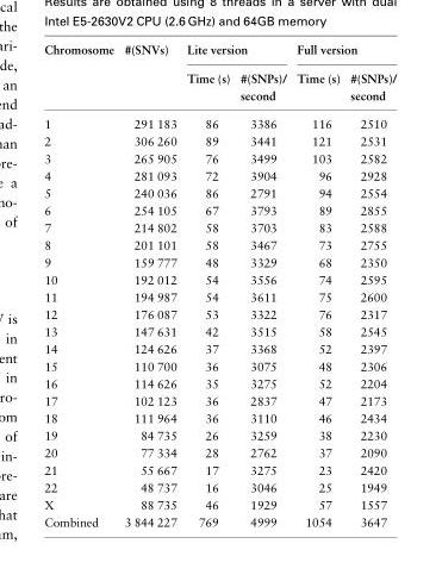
<table><thead><tr><td rowspan="2">Chromosome</td><td rowspan="2">#(SNVs)</td><td colspan="2">Lite version</td><td colspan="2">Full version</td></tr><tr><td>Time (s)</td><td>#(SNPs)/ second</td><td>Time (s)</td><td>#(SNPs)/ second</td></tr></thead><tbody><tr><td>1</td><td>291 183</td><td>86</td><td>3386</td><td>116</td><td>2510</td></tr><tr><td>2</td><td>306 260</td><td>89</td><td>3441</td><td>121</td><td>2531</td></tr><tr><td>3</td><td>265 905</td><td>76</td><td>3499</td><td>103</td><td>2582</td></tr><tr><td>4</td><td>281 093</td><td>72</td><td>3904</td><td>96</td><td>2928</td></tr><tr><td>5</td><td>240 036</td><td>86</td><td>2791</td><td>94</td><td>2554</td></tr><tr><td>6</td><td>254 105</td><td>67</td><td>3793</td><td>89</td><td>2855</td></tr><tr><td>7</td><td>214 802</td><td>58</td><td>3703</td><td>83</td><td>2588</td></tr><tr><td>8</td><td>201 101</td><td>58</td><td>3467</td><td>73</td><td>2755</td></tr><tr><td>9</td><td>159 777</td><td>48</td><td>3329</td><td>68</td><td>2350</td></tr><tr><td>10</td><td>192 012</td><td>54</td><td>3556</td><td>74</td><td>2595</td></tr><tr><td>11</td><td>194 987</td><td>54</td><td>3611</td><td>75</td><td>2600</td></tr><tr><td>12</td><td>176 087</td><td>53</td><td>3322</td><td>76</td><td>2317</td></tr><tr><td>13</td><td>147 631</td><td>42</td><td>3515</td><td>58</td><td>2545</td></tr><tr><td>14</td><td>124 626</td><td>37</td><td>3368</td><td>52</td><td>2397</td></tr><tr><td>15</td><td>110 700</td><td>36</td><td>3075</td><td>48</td><td>2306</td></tr><tr><td>16</td><td>114 626</td><td>35</td><td>3275</td><td>52</td><td>2204</td></tr><tr><td>17</td><td>102 123</td><td>36</td><td>2837</td><td>47</td><td>2173</td></tr><tr><td>18</td><td>111 964</td><td>36</td><td>3110</td><td>46</td><td>2434</td></tr><tr><td>19</td><td>84 735</td><td>26</td><td>3259</td><td>38</td><td>2230</td></tr><tr><td>20</td><td>77 334</td><td>28</td><td>2762</td><td>37</td><td>2090</td></tr><tr><td>21</td><td>55 667</td><td>17</td><td>3275</td><td>23</td><td>2420</td></tr><tr><td>22</td><td>48 737</td><td>16</td><td>3046</td><td>25</td><td>1949</td></tr><tr><td>X</td><td>88 735</td><td>46</td><td>1929</td><td>57</td><td>1557</td></tr><tr><td>Combined</td><td>3 844 227</td><td>769</td><td>4999</td><td>1054</td><td>3647</td></tr></tbody></table>